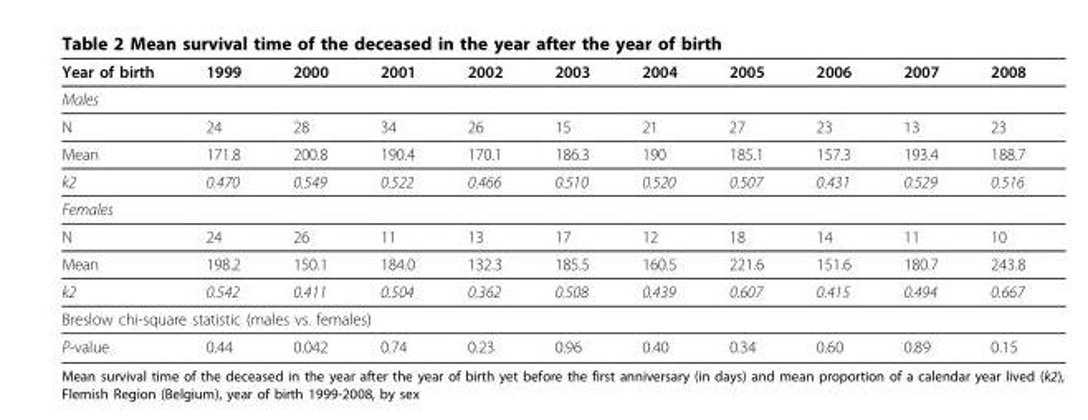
<table><thead><tr><td>Year of birth</td><td>1999</td><td>2000</td><td>2001</td><td>2002</td><td>2003</td><td>2004</td><td>2005</td><td>2006</td><td>2007</td><td>2008</td></tr></thead><tbody><tr><td colspan="11">Males</td></tr><tr><td>N</td><td>24</td><td>28</td><td>34</td><td>26</td><td>15</td><td>21</td><td>27</td><td>23</td><td>13</td><td>23</td></tr><tr><td>Mean</td><td>171.8</td><td>200.8</td><td>190.4</td><td>170.1</td><td>186.3</td><td>190</td><td>185.1</td><td>157.3</td><td>193.4</td><td>188.7</td></tr><tr><td>k2</td><td>0.470</td><td>0.549</td><td>0.522</td><td>0.466</td><td>0.510</td><td>0.520</td><td>0.507</td><td>0.431</td><td>0.529</td><td>0.516</td></tr><tr><td colspan="11">Females</td></tr><tr><td>N</td><td>24</td><td>26</td><td>11</td><td>13</td><td>17</td><td>12</td><td>18</td><td>14</td><td>11</td><td>10</td></tr><tr><td>Mean</td><td>198.2</td><td>150.1</td><td>184.0</td><td>132.3</td><td>185.5</td><td>160.5</td><td>221.6</td><td>151.6</td><td>180.7</td><td>243.8</td></tr><tr><td>k2</td><td>0.542</td><td>0.411</td><td>0.504</td><td>0.362</td><td>0.508</td><td>0.439</td><td>0.607</td><td>0.415</td><td>0.494</td><td>0.667</td></tr><tr><td colspan="11">Breslow chi-square statistic (males vs. females)</td></tr><tr><td>P-value</td><td>0.44</td><td>0.042</td><td>0.74</td><td>0.23</td><td>0.96</td><td>0.40</td><td>0.34</td><td>0.60</td><td>0.89</td><td>0.15</td></tr></tbody></table>